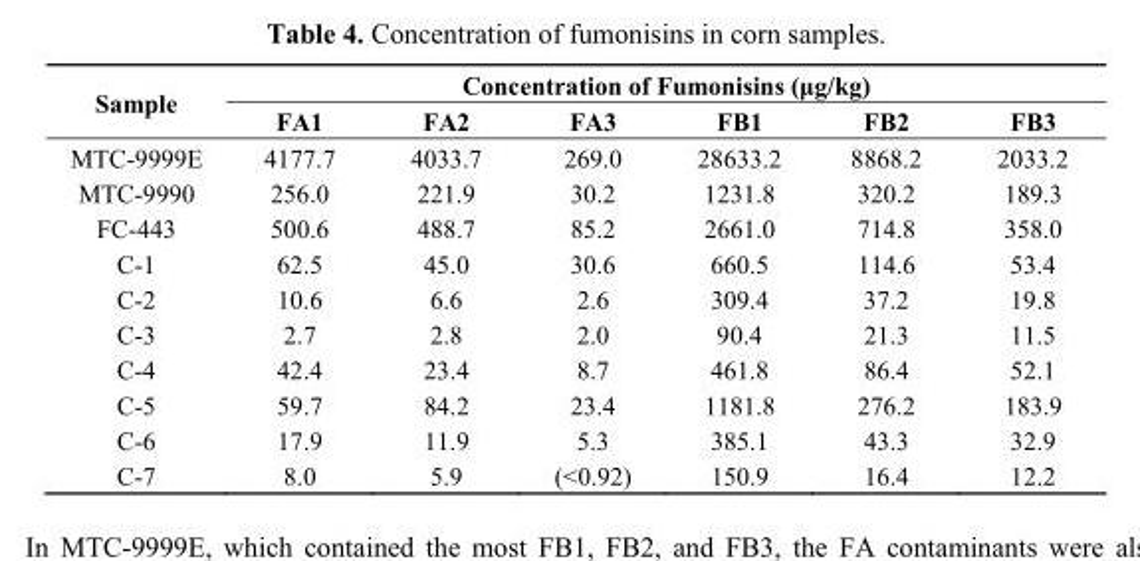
<table><thead><tr><td rowspan="2">Sample</td><td colspan="6">Concentration of Fumonisins (μg/kg)</td></tr><tr><td>FA1</td><td>FA2</td><td>FA3</td><td>FB1</td><td>FB2</td><td>FB3</td></tr></thead><tbody><tr><td>MTC-9999E</td><td>4177.7</td><td>4033.7</td><td>269.0</td><td>28633.2</td><td>8868.2</td><td>2033.2</td></tr><tr><td>MTC-9990</td><td>256.0</td><td>221.9</td><td>30.2</td><td>1231.8</td><td>320.2</td><td>189.3</td></tr><tr><td>FC-443</td><td>500.6</td><td>488.7</td><td>85.2</td><td>2661.0</td><td>714.8</td><td>358.0</td></tr><tr><td>C-1</td><td>62.5</td><td>45.0</td><td>30.6</td><td>660.5</td><td>114.6</td><td>53.4</td></tr><tr><td>C-2</td><td>10.6</td><td>6.6</td><td>2.6</td><td>309.4</td><td>37.2</td><td>19.8</td></tr><tr><td>C-3</td><td>2.7</td><td>2.8</td><td>2.0</td><td>90.4</td><td>21.3</td><td>11.5</td></tr><tr><td>C-4</td><td>42.4</td><td>23.4</td><td>8.7</td><td>461.8</td><td>86.4</td><td>52.1</td></tr><tr><td>C-5</td><td>59.7</td><td>84.2</td><td>23.4</td><td>1181.8</td><td>276.2</td><td>183.9</td></tr><tr><td>C-6</td><td>17.9</td><td>11.9</td><td>5.3</td><td>385.1</td><td>43.3</td><td>32.9</td></tr><tr><td>C-7</td><td>8.0</td><td>5.9</td><td>(&lt;0.92)</td><td>150.9</td><td>16.4</td><td>12.2</td></tr></tbody></table>